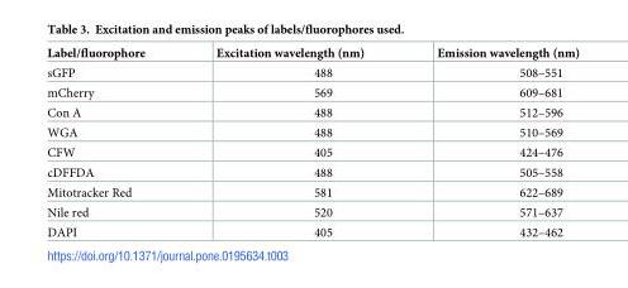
<table><thead><tr><td>Label/fluorophore</td><td>Excitation wavelength (nm)</td><td>Emission wavelength (nm)</td></tr></thead><tbody><tr><td>sGFP</td><td>488</td><td>508–551</td></tr><tr><td>mCherry</td><td>569</td><td>609–681</td></tr><tr><td>Con A</td><td>488</td><td>512–596</td></tr><tr><td>WGA</td><td>488</td><td>510–569</td></tr><tr><td>CFW</td><td>405</td><td>424–476</td></tr><tr><td>cDFFDA</td><td>488</td><td>505–558</td></tr><tr><td>Mitotracker Red</td><td>581</td><td>622–689</td></tr><tr><td>Nile red</td><td>520</td><td>571–637</td></tr><tr><td>DAPI</td><td>405</td><td>432–462</td></tr></tbody></table>